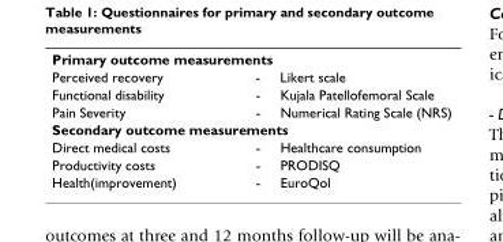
<table><tbody><tr><td colspan="3">Primary outcome measurements</td></tr><tr><td>Perceived recovery</td><td>-</td><td>Likert scale</td></tr><tr><td>Functional disability</td><td>-</td><td>Kujala Patellofemoral Scale</td></tr><tr><td>Pain Severity</td><td>-</td><td>Numerical Rating Scale (NRS)</td></tr><tr><td colspan="3">Secondary outcome measurements</td></tr><tr><td>Direct medical costs</td><td>-</td><td>Healthcare consumption</td></tr><tr><td>Productivity costs</td><td>-</td><td>PRODISQ</td></tr><tr><td>Health(improvement)</td><td>-</td><td>EuroQol</td></tr></tbody></table>